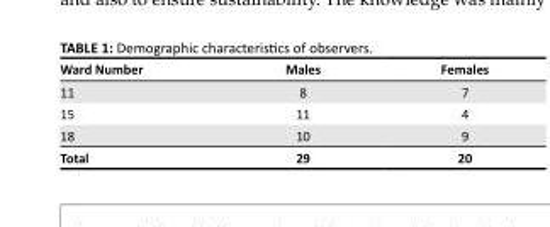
<table><thead><tr><td>Ward Number</td><td>Males</td><td>Females</td></tr></thead><tbody><tr><td>11</td><td>8</td><td>7</td></tr><tr><td>15</td><td>11</td><td>4</td></tr><tr><td>18</td><td>10</td><td>9</td></tr><tr><td>Total</td><td>29</td><td>20</td></tr></tbody></table>